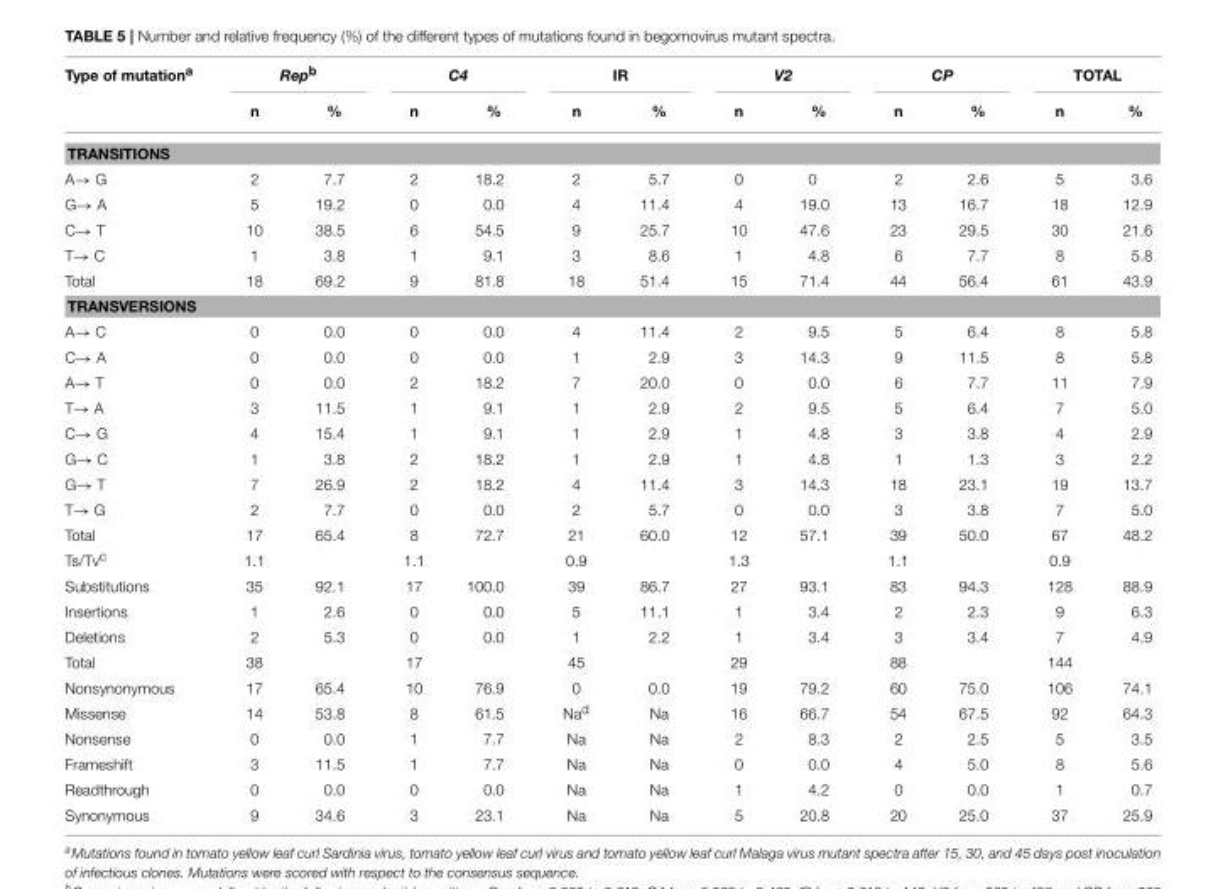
<table><thead><tr><td rowspan="2">Type of mutation<sup>a</sup></td><td colspan="2">Rep<sup>b</sup></td><td colspan="2">C4</td><td colspan="2">IR</td><td colspan="2">V2</td><td colspan="2">CP</td><td colspan="2">TOTAL</td></tr><tr><td>n</td><td>%</td><td>n</td><td>%</td><td>n</td><td>%</td><td>n</td><td>%</td><td>n</td><td>%</td><td>n</td><td>%</td></tr></thead><tbody><tr><td colspan="13">TRANSITIONS</td></tr><tr><td>A→ G</td><td>2</td><td>7.7</td><td>2</td><td>18.2</td><td>2</td><td>5.7</td><td>0</td><td>0</td><td>2</td><td>2.6</td><td>5</td><td>3.6</td></tr><tr><td>G→ A</td><td>5</td><td>19.2</td><td>0</td><td>0.0</td><td>4</td><td>11.4</td><td>4</td><td>19.0</td><td>13</td><td>16.7</td><td>18</td><td>12.9</td></tr><tr><td>C→ T</td><td>10</td><td>38.5</td><td>6</td><td>54.5</td><td>9</td><td>25.7</td><td>10</td><td>47.6</td><td>23</td><td>29.5</td><td>30</td><td>21.6</td></tr><tr><td>T→ C</td><td>1</td><td>3.8</td><td>1</td><td>9.1</td><td>3</td><td>8.6</td><td>1</td><td>4.8</td><td>6</td><td>7.7</td><td>8</td><td>5.8</td></tr><tr><td>Total</td><td>18</td><td>69.2</td><td>9</td><td>81.8</td><td>18</td><td>51.4</td><td>15</td><td>71.4</td><td>44</td><td>56.4</td><td>61</td><td>43.9</td></tr><tr><td colspan="13">TRANSVERSIONS</td></tr><tr><td>A→ C</td><td>0</td><td>0.0</td><td>0</td><td>0.0</td><td>4</td><td>11.4</td><td>2</td><td>9.5</td><td>5</td><td>6.4</td><td>8</td><td>5.8</td></tr><tr><td>C→ A</td><td>0</td><td>0.0</td><td>0</td><td>0.0</td><td>1</td><td>2.9</td><td>3</td><td>14.3</td><td>9</td><td>11.5</td><td>8</td><td>5.8</td></tr><tr><td>A→ T</td><td>0</td><td>0.0</td><td>2</td><td>18.2</td><td>7</td><td>20.0</td><td>0</td><td>0.0</td><td>6</td><td>7.7</td><td>11</td><td>7.9</td></tr><tr><td>T→ A</td><td>3</td><td>11.5</td><td>1</td><td>9.1</td><td>1</td><td>2.9</td><td>2</td><td>9.5</td><td>5</td><td>6.4</td><td>7</td><td>5.0</td></tr><tr><td>C→ G</td><td>4</td><td>15.4</td><td>1</td><td>9.1</td><td>1</td><td>2.9</td><td>1</td><td>4.8</td><td>3</td><td>3.8</td><td>4</td><td>2.9</td></tr><tr><td>G→ C</td><td>1</td><td>3.8</td><td>2</td><td>18.2</td><td>1</td><td>2.9</td><td>1</td><td>4.8</td><td>1</td><td>1.3</td><td>3</td><td>2.2</td></tr><tr><td>G→ T</td><td>7</td><td>26.9</td><td>2</td><td>18.2</td><td>4</td><td>11.4</td><td>3</td><td>14.3</td><td>18</td><td>23.1</td><td>19</td><td>13.7</td></tr><tr><td>T→ G</td><td>2</td><td>7.7</td><td>0</td><td>0.0</td><td>2</td><td>5.7</td><td>0</td><td>0.0</td><td>3</td><td>3.8</td><td>7</td><td>5.0</td></tr><tr><td>Total</td><td>17</td><td>65.4</td><td>8</td><td>72.7</td><td>21</td><td>60.0</td><td>12</td><td>57.1</td><td>39</td><td>50.0</td><td>67</td><td>48.2</td></tr><tr><td>Ts/Tv<sup>c</sup></td><td>1.1</td><td></td><td>1.1</td><td></td><td>0.9</td><td></td><td>1.3</td><td></td><td>1.1</td><td></td><td>0.9</td><td></td></tr><tr><td>Substitutions</td><td>35</td><td>92.1</td><td>17</td><td>100.0</td><td>39</td><td>86.7</td><td>27</td><td>93.1</td><td>83</td><td>94.3</td><td>128</td><td>88.9</td></tr><tr><td>Insertions</td><td>1</td><td>2.6</td><td>0</td><td>0.0</td><td>5</td><td>11.1</td><td>1</td><td>3.4</td><td>2</td><td>2.3</td><td>9</td><td>6.3</td></tr><tr><td>Deletions</td><td>2</td><td>5.3</td><td>0</td><td>0.0</td><td>1</td><td>2.2</td><td>1</td><td>3.4</td><td>3</td><td>3.4</td><td>7</td><td>4.9</td></tr><tr><td>Total</td><td>38</td><td></td><td>17</td><td></td><td>45</td><td></td><td>29</td><td></td><td>88</td><td></td><td>144</td><td></td></tr><tr><td>Nonsynonymous</td><td>17</td><td>65.4</td><td>10</td><td>76.9</td><td>0</td><td>0.0</td><td>19</td><td>79.2</td><td>60</td><td>75.0</td><td>106</td><td>74.1</td></tr><tr><td>Missense</td><td>14</td><td>53.8</td><td>8</td><td>61.5</td><td>Na<sup>d</sup></td><td>Na</td><td>16</td><td>66.7</td><td>54</td><td>67.5</td><td>92</td><td>64.3</td></tr><tr><td>Nonsense</td><td>0</td><td>0.0</td><td>1</td><td>7.7</td><td>Na</td><td>Na</td><td>2</td><td>8.3</td><td>2</td><td>2.5</td><td>5</td><td>3.5</td></tr><tr><td>Frameshift</td><td>3</td><td>11.5</td><td>1</td><td>7.7</td><td>Na</td><td>Na</td><td>0</td><td>0.0</td><td>4</td><td>5.0</td><td>8</td><td>5.6</td></tr><tr><td>Readthrough</td><td>0</td><td>0.0</td><td>0</td><td>0.0</td><td>Na</td><td>Na</td><td>1</td><td>4.2</td><td>0</td><td>0.0</td><td>1</td><td>0.7</td></tr><tr><td>Synonymous</td><td>9</td><td>34.6</td><td>3</td><td>23.1</td><td>Na</td><td>Na</td><td>5</td><td>20.8</td><td>20</td><td>25.0</td><td>37</td><td>25.9</td></tr></tbody></table>